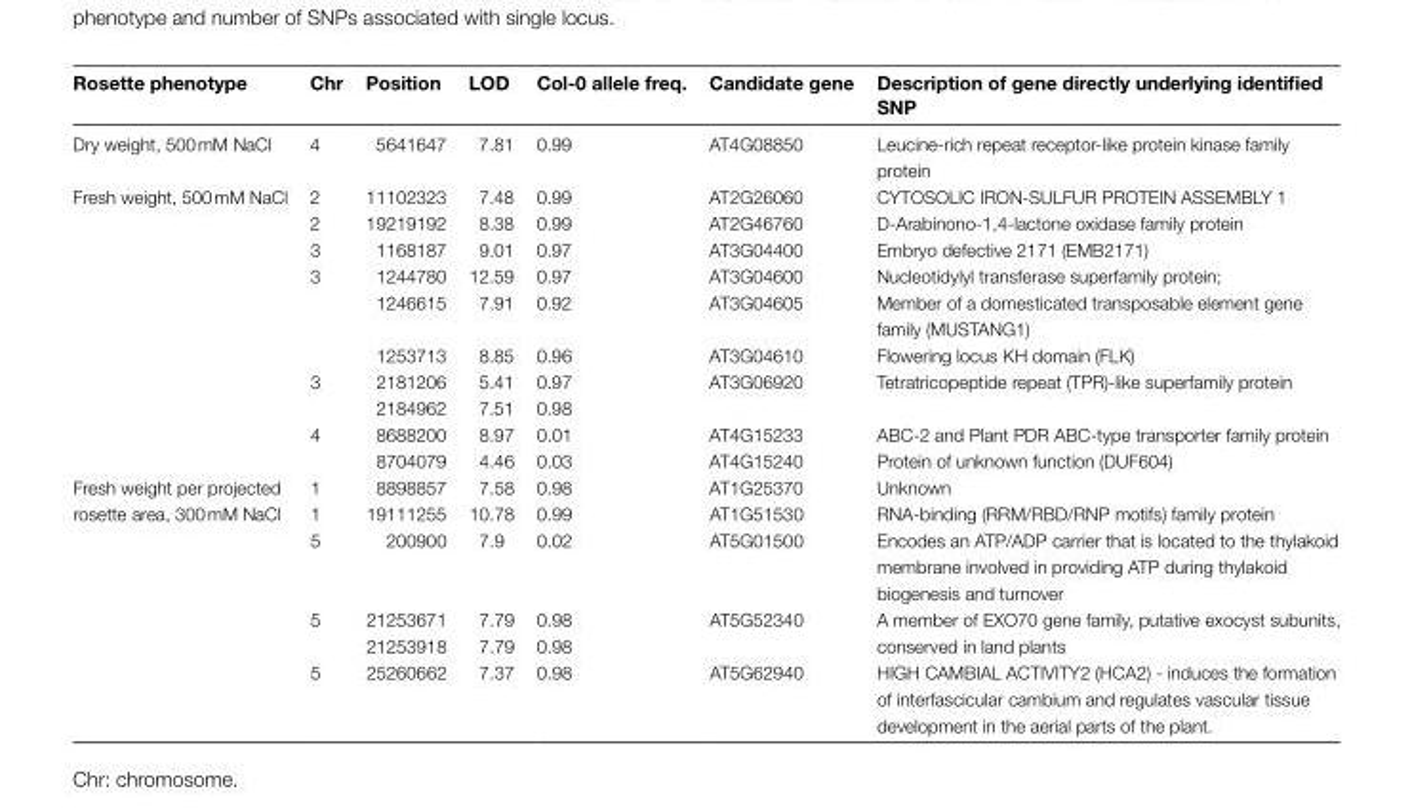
<table><thead><tr><td>Rosette phenotype</td><td>Chr</td><td>Position</td><td>LOD</td><td>Col-0 allele freq.</td><td>Candidate gene</td><td>Description of gene directly underlying identified SNP</td></tr></thead><tbody><tr><td>Dry weight, 500 mM NaCl</td><td>4</td><td>5641647</td><td>7.81</td><td>0.99</td><td>AT4G08850</td><td>Leucine-rich repeat receptor-like protein kinase family protein</td></tr><tr><td rowspan="10">Fresh weight, 500 mM NaCl</td><td>2</td><td>11102323</td><td>7.48</td><td>0.99</td><td>AT2G26060</td><td>CYTOSOLIC IRON-SULFUR PROTEIN ASSEMBLY 1</td></tr><tr><td>2</td><td>19219192</td><td>8.38</td><td>0.99</td><td>AT2G46760</td><td>D-Arabinono-1,4-lactone oxidase family protein</td></tr><tr><td>3</td><td>1168187</td><td>9.01</td><td>0.97</td><td>AT3G04400</td><td>Embryo defective 2171 (EMB2171)</td></tr><tr><td rowspan="3">3</td><td>1244780</td><td>12.59</td><td>0.97</td><td>AT3G04600</td><td>Nucleotidylyl transferase superfamily protein;</td></tr><tr><td>1246615</td><td>7.91</td><td>0.92</td><td>AT3G04605</td><td>Member of a domesticated transposable element gene family (MUSTANG1)</td></tr><tr><td>1253713</td><td>8.85</td><td>0.96</td><td>AT3G04610</td><td>Flowering locus KH domain (FLK)</td></tr><tr><td rowspan="2">3</td><td>2181206</td><td>5.41</td><td>0.97</td><td rowspan="2">AT3G06920</td><td rowspan="2">Tetratricopeptide repeat (TPR)-like superfamily protein</td></tr><tr><td>2184962</td><td>7.51</td><td>0.98</td></tr><tr><td rowspan="2">4</td><td>8688200</td><td>8.97</td><td>0.01</td><td>AT4G15233</td><td>ABC-2 and Plant PDR ABC-type transporter family protein</td></tr><tr><td>8704079</td><td>4.46</td><td>0.03</td><td>AT4G15240</td><td>Protein of unknown function (DUF604)</td></tr><tr><td rowspan="6">Fresh weight per projected rosette area, 300 mM NaCl</td><td>1</td><td>8898857</td><td>7.58</td><td>0.98</td><td>AT1G25370</td><td>Unknown</td></tr><tr><td>1</td><td>19111255</td><td>10.78</td><td>0.99</td><td>AT1G51530</td><td>RNA-binding (RRM/RBD/RNP motifs) family protein</td></tr><tr><td>5</td><td>200900</td><td>7.9</td><td>0.02</td><td>AT5G01500</td><td>Encodes an ATP/ADP carrier that is located to the thylakoid membrane involved in providing ATP during thylakoid biogenesis and turnover</td></tr><tr><td rowspan="2">5</td><td>21253671</td><td>7.79</td><td>0.98</td><td rowspan="2">AT5G52340</td><td rowspan="2">A member of EXO70 gene family, putative exocyst subunits, conserved in land plants</td></tr><tr><td>21253918</td><td>7.79</td><td>0.98</td></tr><tr><td>5</td><td>25260662</td><td>7.37</td><td>0.98</td><td>AT5G62940</td><td>HIGH CAMBIAL ACTIVITY2 (HCA2) - induces the formation of interfascicular cambium and regulates vascular tissue development in the aerial parts of the plant.</td></tr></tbody></table>